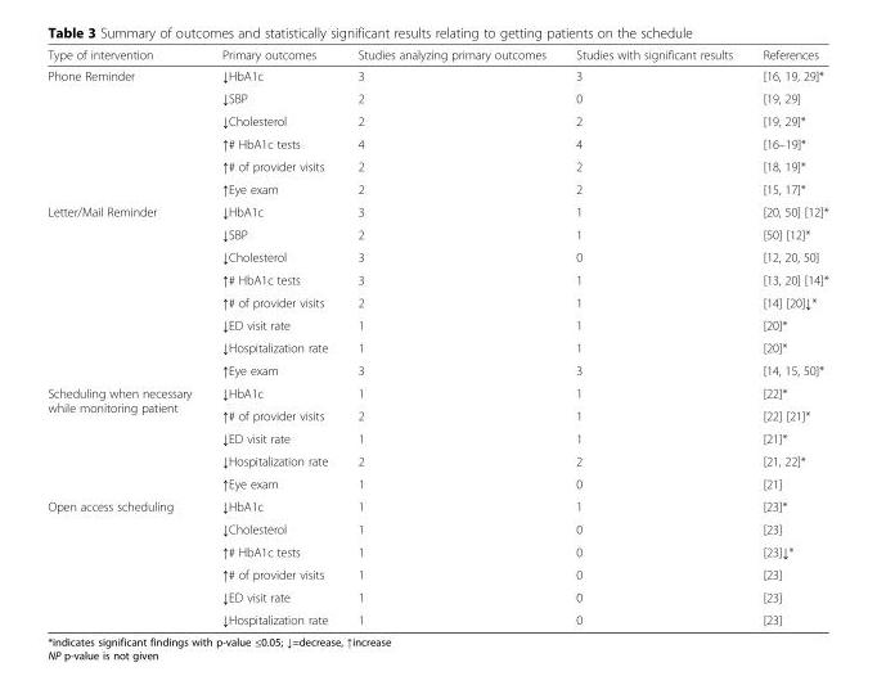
<table><thead><tr><td>Type of intervention</td><td>Primary outcomes</td><td>Studies analyzing primary outcomes</td><td>Studies with significant results</td><td>References</td></tr></thead><tbody><tr><td rowspan="6">Phone Reminder</td><td>↓HbA1c</td><td>3</td><td>3</td><td>[16, 19, 29]*</td></tr><tr><td>↓SBP</td><td>2</td><td>0</td><td>[19, 29]</td></tr><tr><td>↓Cholesterol</td><td>2</td><td>2</td><td>[19, 29]*</td></tr><tr><td>↑# HbA1c tests</td><td>4</td><td>4</td><td>[16–19]*</td></tr><tr><td>↑# of provider visits</td><td>2</td><td>2</td><td>[18, 19]*</td></tr><tr><td>↑Eye exam</td><td>2</td><td>2</td><td>[15, 17]*</td></tr><tr><td rowspan="8">Letter/Mail Reminder</td><td>↓HbA1c</td><td>3</td><td>1</td><td>[20, 50] [12]*</td></tr><tr><td>↓SBP</td><td>2</td><td>1</td><td>[50] [12]*</td></tr><tr><td>↓Cholesterol</td><td>3</td><td>0</td><td>[12, 20, 50]</td></tr><tr><td>↑# HbA1c tests</td><td>3</td><td>1</td><td>[13, 20] [14]*</td></tr><tr><td>↑# of provider visits</td><td>2</td><td>1</td><td>[14] [20]↓*</td></tr><tr><td>↓ED visit rate</td><td>1</td><td>1</td><td>[20]*</td></tr><tr><td>↓Hospitalization rate</td><td>1</td><td>1</td><td>[20]*</td></tr><tr><td>↑Eye exam</td><td>3</td><td>3</td><td>[14, 15, 50]*</td></tr><tr><td rowspan="5">Scheduling when necessary while monitoring patient</td><td>↓HbA1c</td><td>1</td><td>1</td><td>[22]*</td></tr><tr><td>↑# of provider visits</td><td>2</td><td>1</td><td>[22] [21]*</td></tr><tr><td>↓ED visit rate</td><td>1</td><td>1</td><td>[21]*</td></tr><tr><td>↓Hospitalization rate</td><td>2</td><td>2</td><td>[21, 22]*</td></tr><tr><td>↑Eye exam</td><td>1</td><td>0</td><td>[21]</td></tr><tr><td rowspan="6">Open access scheduling</td><td>↓HbA1c</td><td>1</td><td>1</td><td>[23]*</td></tr><tr><td>↓Cholesterol</td><td>1</td><td>0</td><td>[23]</td></tr><tr><td>↑# HbA1c tests</td><td>1</td><td>0</td><td>[23]↓*</td></tr><tr><td>↑# of provider visits</td><td>1</td><td>0</td><td>[23]</td></tr><tr><td>↓ED visit rate</td><td>1</td><td>0</td><td>[23]</td></tr><tr><td>↓Hospitalization rate</td><td>1</td><td>0</td><td>[23]</td></tr></tbody></table>